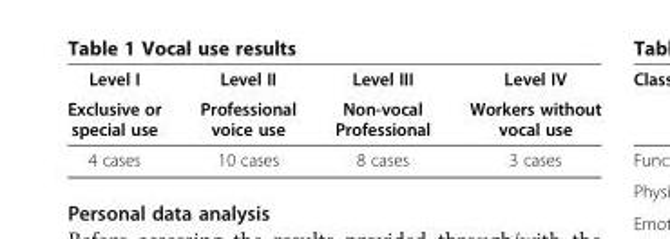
<table><thead><tr><td rowspan="2">Level I Exclusive or special use</td><td rowspan="2">Level II Professional voice use</td><td rowspan="2">Level III Non-vocal Professional</td><td rowspan="2">Level IV Workers without vocal use</td></tr><tr></tr></thead><tbody><tr><td>4 cases</td><td>10 cases</td><td>8 cases</td><td>3 cases</td></tr></tbody></table>